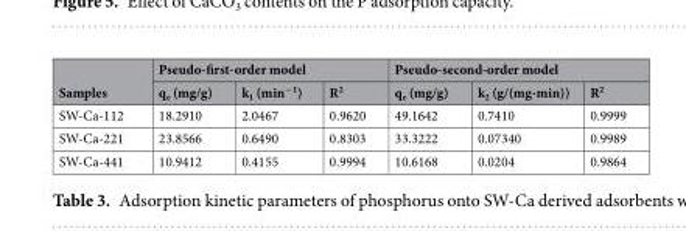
<table><thead><tr><td rowspan="2">Samples</td><td colspan="3">Pseudo-first-order model</td><td colspan="3">Pseudo-second-order model</td></tr><tr><td>q<sub>e</sub> (mg/g)</td><td>k<sub>1</sub> (min<sup>−1</sup>)</td><td>R<sup>2</sup></td><td>q<sub>e</sub> (mg/g)</td><td>k<sub>2</sub> (g/(mg⋅min))</td><td>R<sup>2</sup></td></tr></thead><tbody><tr><td>SW-Ca-112</td><td>18.2910</td><td>2.0467</td><td>0.9620</td><td>49.1642</td><td>0.7410</td><td>0.9999</td></tr><tr><td>SW-Ca-221</td><td>23.8566</td><td>0.6490</td><td>0.8303</td><td>33.3222</td><td>0.07340</td><td>0.9989</td></tr><tr><td>SW-Ca-441</td><td>10.9412</td><td>0.4155</td><td>0.9994</td><td>10.6168</td><td>0.0204</td><td>0.9864</td></tr></tbody></table>